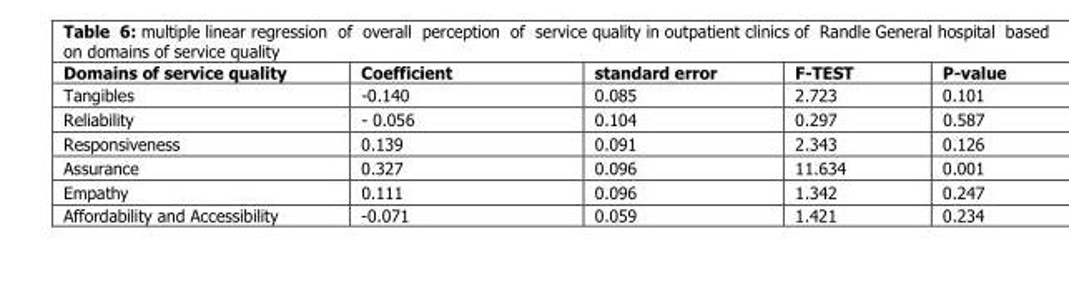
<table><thead><tr><td>Domains of service quality</td><td>Coefficient</td><td>standard error</td><td>F-TEST</td><td>P-value</td></tr></thead><tbody><tr><td>Tangibles</td><td>-0.140</td><td>0.085</td><td>2.723</td><td>0.101</td></tr><tr><td>Reliability</td><td>- 0.056</td><td>0.104</td><td>0.297</td><td>0.587</td></tr><tr><td>Responsiveness</td><td>0.139</td><td>0.091</td><td>2.343</td><td>0.126</td></tr><tr><td>Assurance</td><td>0.327</td><td>0.096</td><td>11.634</td><td>0.001</td></tr><tr><td>Empathy</td><td>0.111</td><td>0.096</td><td>1.342</td><td>0.247</td></tr><tr><td>Affordability and Accessibility</td><td>-0.071</td><td>0.059</td><td>1.421</td><td>0.234</td></tr></tbody></table>